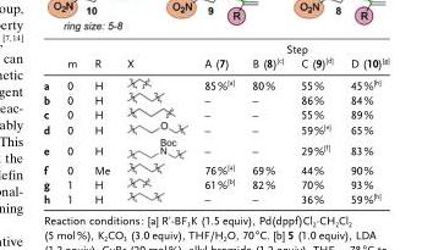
<table><thead><tr><td rowspan="2"></td><td rowspan="2">m</td><td rowspan="2">R</td><td rowspan="2">X</td><td colspan="4">Step</td></tr><tr><td>A (7)</td><td>B (8)<sup>[c]</sup></td><td>C (9)<sup>[d]</sup></td><td>D (10)<sup>[g]</sup></td></tr></thead><tbody><tr><td>a</td><td>0</td><td>H</td><td></td><td>85%<sup>[a]</sup></td><td>80%</td><td>55%</td><td>45%<sup>[h]</sup></td></tr><tr><td>b</td><td>0</td><td>H</td><td></td><td>–</td><td>–</td><td>86%</td><td>84%</td></tr><tr><td>c</td><td>0</td><td>H</td><td></td><td>–</td><td>–</td><td>55%</td><td>89%</td></tr><tr><td>d</td><td>0</td><td>H</td><td></td><td>–</td><td>–</td><td>59%<sup>[e]</sup></td><td>65%</td></tr><tr><td>e</td><td>0</td><td>H</td><td></td><td>–</td><td>–</td><td>29%<sup>[f]</sup></td><td>83%</td></tr><tr><td>f</td><td>0</td><td>Me</td><td></td><td>76%<sup>[a]</sup></td><td>69%</td><td>44%</td><td>90%</td></tr><tr><td>g</td><td>1</td><td>H</td><td></td><td>61%<sup>[b]</sup></td><td>82%</td><td>70%</td><td>93%</td></tr><tr><td>h</td><td>1</td><td>H</td><td></td><td>–</td><td>–</td><td>36%</td><td>59%<sup>[h]</sup></td></tr></tbody></table>